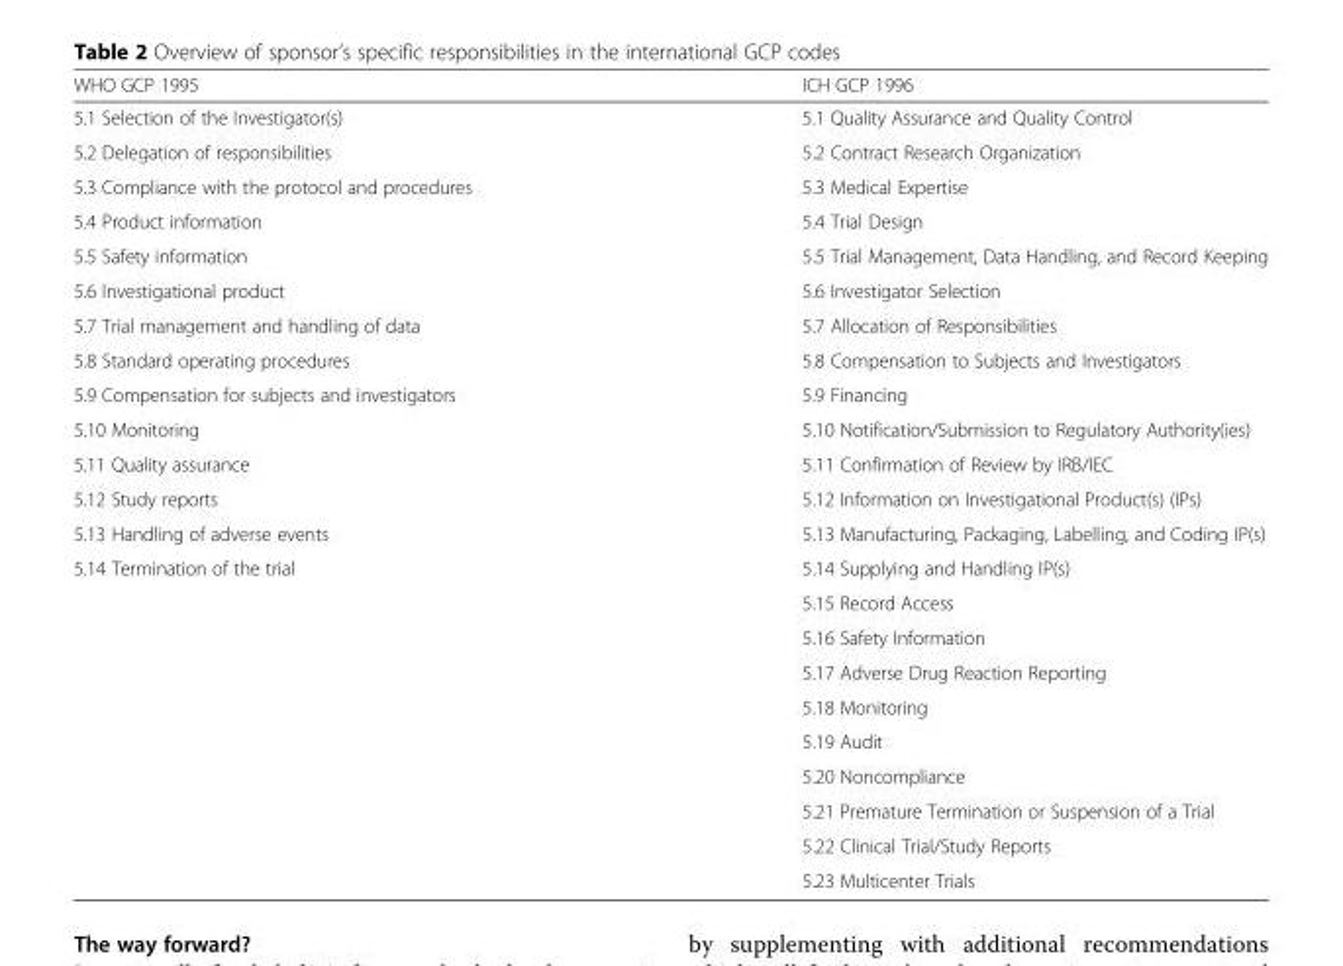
<table><thead><tr><td>WHO GCP 1995</td><td>ICH GCP 1996</td></tr></thead><tbody><tr><td>5.1 Selection of the Investigator(s)</td><td>5.1 Quality Assurance and Quality Control</td></tr><tr><td>5.2 Delegation of responsibilities</td><td>5.2 Contract Research Organization</td></tr><tr><td>5.3 Compliance with the protocol and procedures</td><td>5.3 Medical Expertise</td></tr><tr><td>5.4 Product information</td><td>5.4 Trial Design</td></tr><tr><td>5.5 Safety information</td><td>5.5 Trial Management, Data Handling, and Record Keeping</td></tr><tr><td>5.6 Investigational product</td><td>5.6 Investigator Selection</td></tr><tr><td>5.7 Trial management and handling of data</td><td>5.7 Allocation of Responsibilities</td></tr><tr><td>5.8 Standard operating procedures</td><td>5.8 Compensation to Subjects and Investigators</td></tr><tr><td>5.9 Compensation for subjects and investigators</td><td>5.9 Financing</td></tr><tr><td>5.10 Monitoring</td><td>5.10 Notification/Submission to Regulatory Authority(ies)</td></tr><tr><td>5.11 Quality assurance</td><td>5.11 Confirmation of Review by IRB/IEC</td></tr><tr><td>5.12 Study reports</td><td>5.12 Information on Investigational Product(s) (IPs)</td></tr><tr><td>5.13 Handling of adverse events</td><td>5.13 Manufacturing, Packaging, Labelling, and Coding IP(s)</td></tr><tr><td rowspan="10">5.14 Termination of the trial</td><td>5.14 Supplying and Handling IP(s)</td></tr><tr><td>5.15 Record Access</td></tr><tr><td>5.16 Safety Information</td></tr><tr><td>5.17 Adverse Drug Reaction Reporting</td></tr><tr><td>5.18 Monitoring</td></tr><tr><td>5.19 Audit</td></tr><tr><td>5.20 Noncompliance</td></tr><tr><td>5.21 Premature Termination or Suspension of a Trial</td></tr><tr><td>5.22 Clinical Trial/Study Reports</td></tr><tr><td>5.23 Multicenter Trials</td></tr></tbody></table>